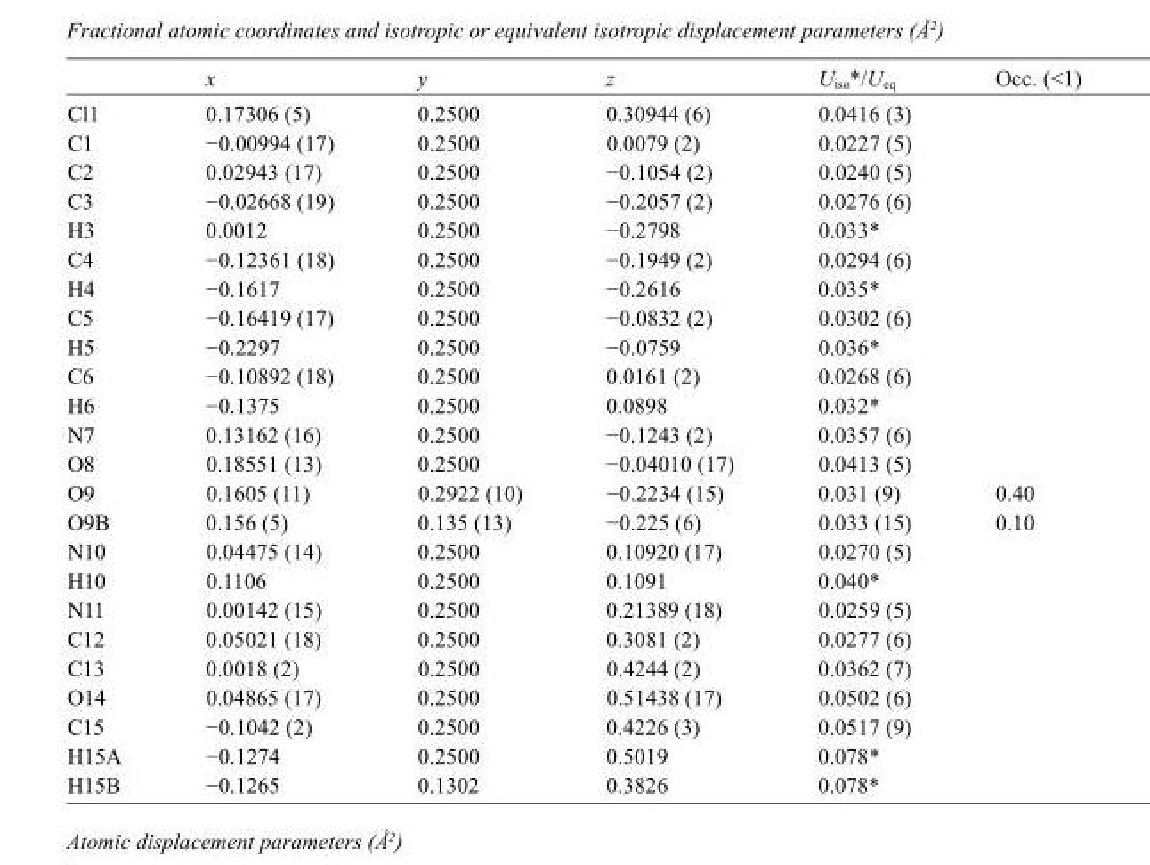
<table><thead><tr><td></td><td>x</td><td>y</td><td>z</td><td>U<sub>iso</sub>*/U<sub>eq</sub></td><td>Occ. (&lt;1)</td></tr></thead><tbody><tr><td>Cl1</td><td>0.17306 (5)</td><td>0.2500</td><td>0.30944 (6)</td><td>0.0416 (3)</td><td></td></tr><tr><td>C1</td><td>−0.00994 (17)</td><td>0.2500</td><td>0.0079 (2)</td><td>0.0227 (5)</td><td></td></tr><tr><td>C2</td><td>0.02943 (17)</td><td>0.2500</td><td>−0.1054 (2)</td><td>0.0240 (5)</td><td></td></tr><tr><td>C3</td><td>−0.02668 (19)</td><td>0.2500</td><td>−0.2057 (2)</td><td>0.0276 (6)</td><td></td></tr><tr><td>H3</td><td>0.0012</td><td>0.2500</td><td>−0.2798</td><td>0.033*</td><td></td></tr><tr><td>C4</td><td>−0.12361 (18)</td><td>0.2500</td><td>−0.1949 (2)</td><td>0.0294 (6)</td><td></td></tr><tr><td>H4</td><td>−0.1617</td><td>0.2500</td><td>−0.2616</td><td>0.035*</td><td></td></tr><tr><td>C5</td><td>−0.16419 (17)</td><td>0.2500</td><td>−0.0832 (2)</td><td>0.0302 (6)</td><td></td></tr><tr><td>H5</td><td>−0.2297</td><td>0.2500</td><td>−0.0759</td><td>0.036*</td><td></td></tr><tr><td>C6</td><td>−0.10892 (18)</td><td>0.2500</td><td>0.0161 (2)</td><td>0.0268 (6)</td><td></td></tr><tr><td>H6</td><td>−0.1375</td><td>0.2500</td><td>0.0898</td><td>0.032*</td><td></td></tr><tr><td>N7</td><td>0.13162 (16)</td><td>0.2500</td><td>−0.1243 (2)</td><td>0.0357 (6)</td><td></td></tr><tr><td>O8</td><td>0.18551 (13)</td><td>0.2500</td><td>−0.04010 (17)</td><td>0.0413 (5)</td><td></td></tr><tr><td>O9</td><td>0.1605 (11)</td><td>0.2922 (10)</td><td>−0.2234 (15)</td><td>0.031 (9)</td><td>0.40</td></tr><tr><td>O9B</td><td>0.156 (5)</td><td>0.135 (13)</td><td>−0.225 (6)</td><td>0.033 (15)</td><td>0.10</td></tr><tr><td>N10</td><td>0.04475 (14)</td><td>0.2500</td><td>0.10920 (17)</td><td>0.0270 (5)</td><td></td></tr><tr><td>H10</td><td>0.1106</td><td>0.2500</td><td>0.1091</td><td>0.040*</td><td></td></tr><tr><td>N11</td><td>0.00142 (15)</td><td>0.2500</td><td>0.21389 (18)</td><td>0.0259 (5)</td><td></td></tr><tr><td>C12</td><td>0.05021 (18)</td><td>0.2500</td><td>0.3081 (2)</td><td>0.0277 (6)</td><td></td></tr><tr><td>C13</td><td>0.0018 (2)</td><td>0.2500</td><td>0.4244 (2)</td><td>0.0362 (7)</td><td></td></tr><tr><td>O14</td><td>0.04865 (17)</td><td>0.2500</td><td>0.51438 (17)</td><td>0.0502 (6)</td><td></td></tr><tr><td>C15</td><td>−0.1042 (2)</td><td>0.2500</td><td>0.4226 (3)</td><td>0.0517 (9)</td><td></td></tr><tr><td>H15A</td><td>−0.1274</td><td>0.2500</td><td>0.5019</td><td>0.078*</td><td></td></tr><tr><td>H15B</td><td>−0.1265</td><td>0.1302</td><td>0.3826</td><td>0.078*</td><td></td></tr></tbody></table>